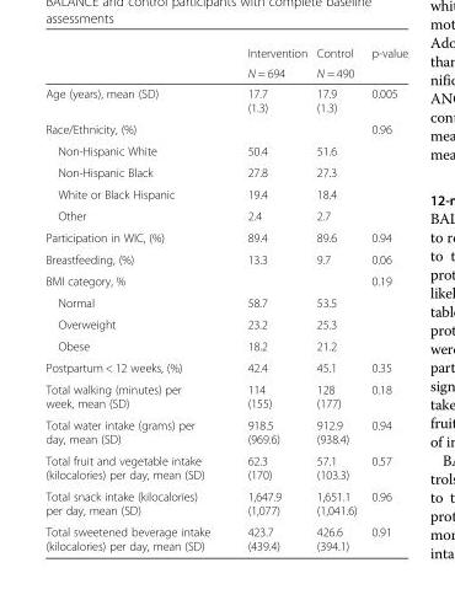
<table><thead><tr><td rowspan="2"></td><td rowspan="2">Intervention N = 694</td><td rowspan="2">Control N = 490</td><td rowspan="2">p-value</td></tr><tr></tr></thead><tbody><tr><td>Age (years), mean (SD)</td><td>17.7 (1.3)</td><td>17.9 (1.3)</td><td>0.005</td></tr><tr><td colspan="3">Race/Ethnicity, (%)</td><td rowspan="5">0.96</td></tr><tr><td>Non-Hispanic White</td><td>50.4</td><td>51.6</td></tr><tr><td>Non-Hispanic Black</td><td>27.8</td><td>27.3</td></tr><tr><td>White or Black Hispanic</td><td>19.4</td><td>18.4</td></tr><tr><td>Other</td><td>2.4</td><td>2.7</td></tr><tr><td>Participation in WIC, (%)</td><td>89.4</td><td>89.6</td><td>0.94</td></tr><tr><td>Breastfeeding, (%)</td><td>13.3</td><td>9.7</td><td>0.06</td></tr><tr><td colspan="3">BMI category, %</td><td rowspan="4">0.19</td></tr><tr><td>Normal</td><td>58.7</td><td>53.5</td></tr><tr><td>Overweight</td><td>23.2</td><td>25.3</td></tr><tr><td>Obese</td><td>18.2</td><td>21.2</td></tr><tr><td>Postpartum &lt; 12 weeks, (%)</td><td>42.4</td><td>45.1</td><td>0.35</td></tr><tr><td>Total walking (minutes) per week, mean (SD)</td><td>114 (155)</td><td>128 (177)</td><td>0.18</td></tr><tr><td>Total water intake (grams) per day, mean (SD)</td><td>918.5 (969.6)</td><td>912.9 (938.4)</td><td>0.94</td></tr><tr><td>Total fruit and vegetable intake (kilocalories) per day, mean (SD)</td><td>62.3 (170)</td><td>57.1 (103.3)</td><td>0.57</td></tr><tr><td>Total snack intake (kilocalories) per day, mean (SD)</td><td>1,647.9 (1,077)</td><td>1,651.1 (1,041.6)</td><td>0.96</td></tr><tr><td>Total sweetened beverage intake (kilocalories) per day, mean (SD)</td><td>423.7 (439.4)</td><td>426.6 (394.1)</td><td>0.91</td></tr></tbody></table>